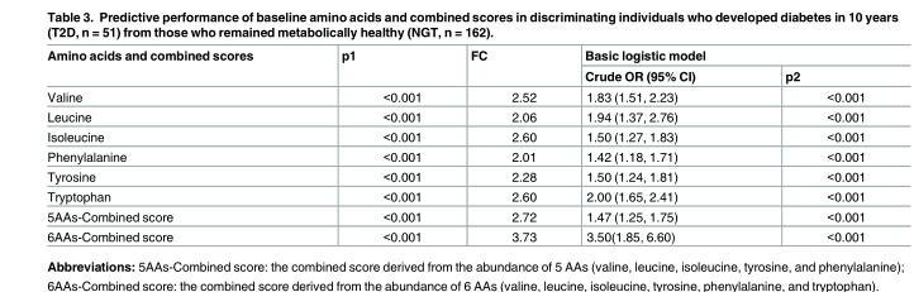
<table><thead><tr><td rowspan="2">Amino acids and combined scores</td><td rowspan="2">p1</td><td rowspan="2">FC</td><td colspan="2">Basic logistic model</td></tr><tr><td>Crude OR (95% CI)</td><td>p2</td></tr></thead><tbody><tr><td>Valine</td><td>&lt;0.001</td><td>2.52</td><td>1.83 (1.51, 2.23)</td><td>&lt;0.001</td></tr><tr><td>Leucine</td><td>&lt;0.001</td><td>2.06</td><td>1.94 (1.37, 2.76)</td><td>&lt;0.001</td></tr><tr><td>Isoleucine</td><td>&lt;0.001</td><td>2.60</td><td>1.50 (1.27, 1.83)</td><td>&lt;0.001</td></tr><tr><td>Phenylalanine</td><td>&lt;0.001</td><td>2.01</td><td>1.42 (1.18, 1.71)</td><td>&lt;0.001</td></tr><tr><td>Tyrosine</td><td>&lt;0.001</td><td>2.28</td><td>1.50 (1.24, 1.81)</td><td>&lt;0.001</td></tr><tr><td>Tryptophan</td><td>&lt;0.001</td><td>2.60</td><td>2.00 (1.65, 2.41)</td><td>&lt;0.001</td></tr><tr><td>5AAs-Combined score</td><td>&lt;0.001</td><td>2.72</td><td>1.47 (1.25, 1.75)</td><td>&lt;0.001</td></tr><tr><td>6AAs-Combined score</td><td>&lt;0.001</td><td>3.73</td><td>3.50(1.85, 6.60)</td><td>&lt;0.001</td></tr></tbody></table>